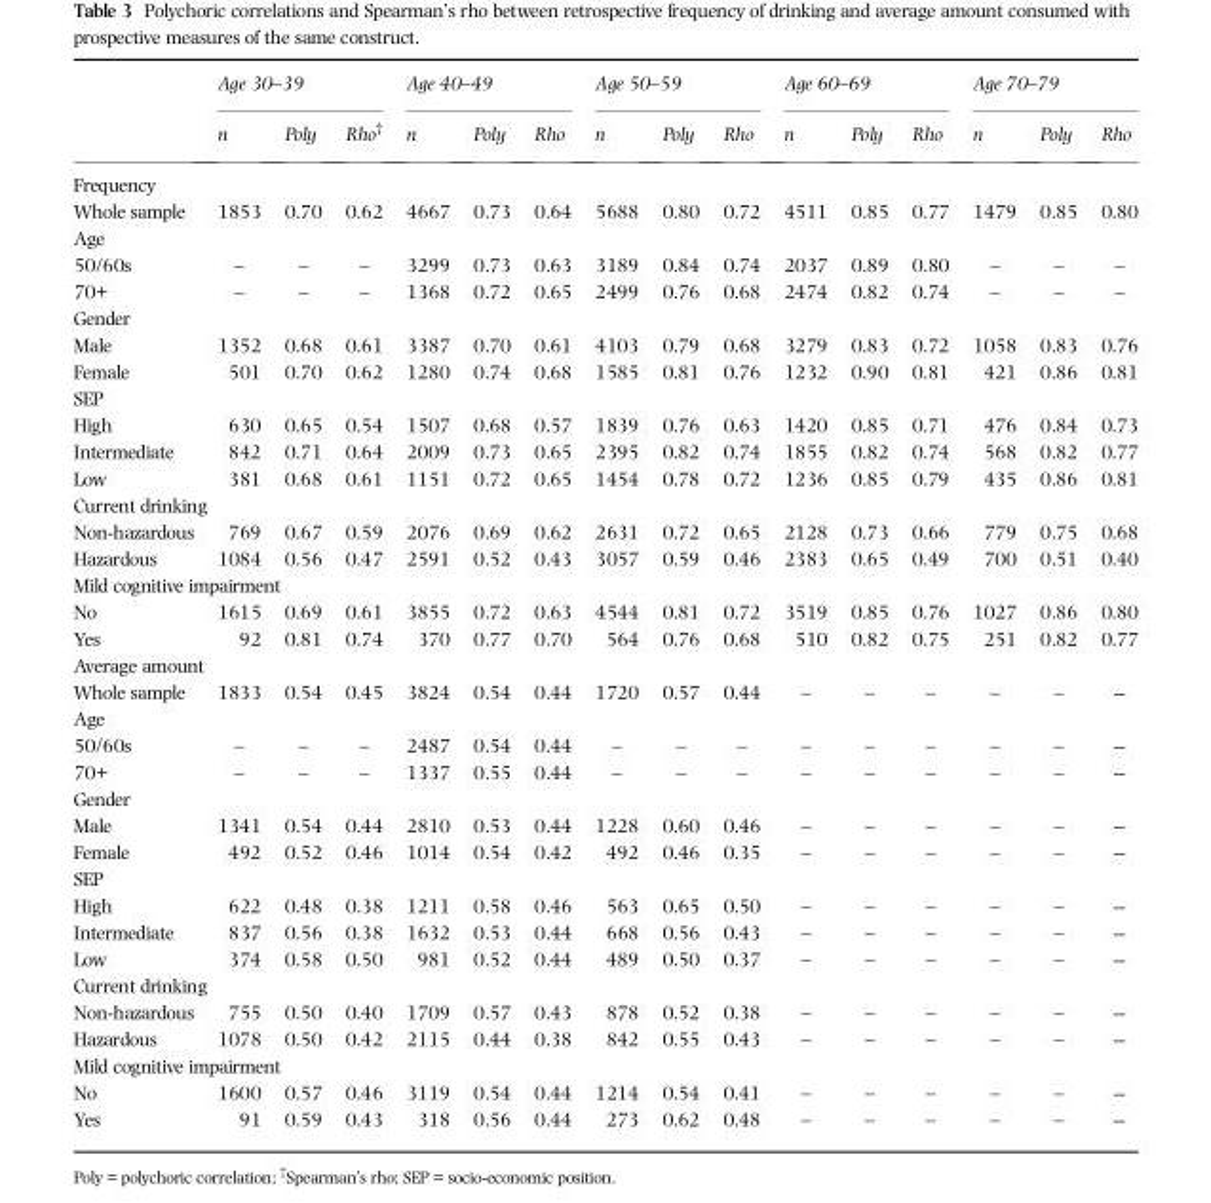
<table><thead><tr><td rowspan="2"></td><td colspan="3">Age 30–39</td><td colspan="3">Age 40–49</td><td colspan="3">Age 50–59</td><td colspan="3">Age 60–69</td><td colspan="3">Age 70–79</td></tr><tr><td>n</td><td>Poly</td><td>Rho†</td><td>n</td><td>Poly</td><td>Rho</td><td>n</td><td>Poly</td><td>Rho</td><td>n</td><td>Poly</td><td>Rho</td><td>n</td><td>Poly</td><td>Rho</td></tr></thead><tbody><tr><td colspan="16">Frequency</td></tr><tr><td>Whole sample</td><td>1853</td><td>0.70</td><td>0.62</td><td>4667</td><td>0.73</td><td>0.64</td><td>5688</td><td>0.80</td><td>0.72</td><td>4511</td><td>0.85</td><td>0.77</td><td>1479</td><td>0.85</td><td>0.80</td></tr><tr><td colspan="16">Age</td></tr><tr><td>50/60s</td><td>–</td><td>–</td><td>–</td><td>3299</td><td>0.73</td><td>0.63</td><td>3189</td><td>0.84</td><td>0.74</td><td>2037</td><td>0.89</td><td>0.80</td><td>–</td><td>–</td><td>–</td></tr><tr><td>70+</td><td>–</td><td>–</td><td>–</td><td>1368</td><td>0.72</td><td>0.65</td><td>2499</td><td>0.76</td><td>0.68</td><td>2474</td><td>0.82</td><td>0.74</td><td>–</td><td>–</td><td>–</td></tr><tr><td colspan="16">Gender</td></tr><tr><td>Male</td><td>1352</td><td>0.68</td><td>0.61</td><td>3387</td><td>0.70</td><td>0.61</td><td>4103</td><td>0.79</td><td>0.68</td><td>3279</td><td>0.83</td><td>0.72</td><td>1058</td><td>0.83</td><td>0.76</td></tr><tr><td>Female</td><td>501</td><td>0.70</td><td>0.62</td><td>1280</td><td>0.74</td><td>0.68</td><td>1585</td><td>0.81</td><td>0.76</td><td>1232</td><td>0.90</td><td>0.81</td><td>421</td><td>0.86</td><td>0.81</td></tr><tr><td colspan="16">SEP</td></tr><tr><td>High</td><td>630</td><td>0.65</td><td>0.54</td><td>1507</td><td>0.68</td><td>0.57</td><td>1839</td><td>0.76</td><td>0.63</td><td>1420</td><td>0.85</td><td>0.71</td><td>476</td><td>0.84</td><td>0.73</td></tr><tr><td>Intermediate</td><td>842</td><td>0.71</td><td>0.64</td><td>2009</td><td>0.73</td><td>0.65</td><td>2395</td><td>0.82</td><td>0.74</td><td>1855</td><td>0.82</td><td>0.74</td><td>568</td><td>0.82</td><td>0.77</td></tr><tr><td>Low</td><td>381</td><td>0.68</td><td>0.61</td><td>1151</td><td>0.72</td><td>0.65</td><td>1454</td><td>0.78</td><td>0.72</td><td>1236</td><td>0.85</td><td>0.79</td><td>435</td><td>0.86</td><td>0.81</td></tr><tr><td colspan="16">Current drinking</td></tr><tr><td>Non-hazardous</td><td>769</td><td>0.67</td><td>0.59</td><td>2076</td><td>0.69</td><td>0.62</td><td>2631</td><td>0.72</td><td>0.65</td><td>2128</td><td>0.73</td><td>0.66</td><td>779</td><td>0.75</td><td>0.68</td></tr><tr><td>Hazardous</td><td>1084</td><td>0.56</td><td>0.47</td><td>2591</td><td>0.52</td><td>0.43</td><td>3057</td><td>0.59</td><td>0.46</td><td>2383</td><td>0.65</td><td>0.49</td><td>700</td><td>0.51</td><td>0.40</td></tr><tr><td colspan="16">Mild cognitive impairment</td></tr><tr><td>No</td><td>1615</td><td>0.69</td><td>0.61</td><td>3855</td><td>0.72</td><td>0.63</td><td>4544</td><td>0.81</td><td>0.72</td><td>3519</td><td>0.85</td><td>0.76</td><td>1027</td><td>0.86</td><td>0.80</td></tr><tr><td>Yes</td><td>92</td><td>0.81</td><td>0.74</td><td>370</td><td>0.77</td><td>0.70</td><td>564</td><td>0.76</td><td>0.68</td><td>510</td><td>0.82</td><td>0.75</td><td>251</td><td>0.82</td><td>0.77</td></tr><tr><td colspan="16">Average amount</td></tr><tr><td>Whole sample</td><td>1833</td><td>0.54</td><td>0.45</td><td>3824</td><td>0.54</td><td>0.44</td><td>1720</td><td>0.57</td><td>0.44</td><td>–</td><td>–</td><td>–</td><td>–</td><td>–</td><td>--</td></tr><tr><td colspan="16">Age</td></tr><tr><td>50/60s</td><td>–</td><td>–</td><td>–</td><td>2487</td><td>0.54</td><td>0.44</td><td>–</td><td>–</td><td>–</td><td>–</td><td>–</td><td>–</td><td>–</td><td>–</td><td>--</td></tr><tr><td>70+</td><td>–</td><td>–</td><td>–</td><td>1337</td><td>0.55</td><td>0.44</td><td>–</td><td>–</td><td>–</td><td>–</td><td>–</td><td>–</td><td>–</td><td>–</td><td>--</td></tr><tr><td colspan="16">Gender</td></tr><tr><td>Male</td><td>1341</td><td>0.54</td><td>0.44</td><td>2810</td><td>0.53</td><td>0.44</td><td>1228</td><td>0.60</td><td>0.46</td><td>–</td><td>–</td><td>–</td><td>–</td><td>–</td><td>--</td></tr><tr><td>Female</td><td>492</td><td>0.52</td><td>0.46</td><td>1014</td><td>0.54</td><td>0.42</td><td>492</td><td>0.46</td><td>0.35</td><td>–</td><td>–</td><td>–</td><td>–</td><td>–</td><td>--</td></tr><tr><td colspan="16">SEP</td></tr><tr><td>High</td><td>622</td><td>0.48</td><td>0.38</td><td>1211</td><td>0.58</td><td>0.46</td><td>563</td><td>0.65</td><td>0.50</td><td>–</td><td>–</td><td>–</td><td>–</td><td>–</td><td>--</td></tr><tr><td>Intermediate</td><td>837</td><td>0.56</td><td>0.38</td><td>1632</td><td>0.53</td><td>0.44</td><td>668</td><td>0.56</td><td>0.43</td><td>–</td><td>–</td><td>–</td><td>–</td><td>–</td><td>--</td></tr><tr><td>Low</td><td>374</td><td>0.58</td><td>0.50</td><td>981</td><td>0.52</td><td>0.44</td><td>489</td><td>0.50</td><td>0.37</td><td>–</td><td>–</td><td>–</td><td>–</td><td>–</td><td>--</td></tr><tr><td colspan="16">Current drinking</td></tr><tr><td>Non-hazardous</td><td>755</td><td>0.50</td><td>0.40</td><td>1709</td><td>0.57</td><td>0.43</td><td>878</td><td>0.52</td><td>0.38</td><td>–</td><td>–</td><td>–</td><td>–</td><td>–</td><td>--</td></tr><tr><td>Hazardous</td><td>1078</td><td>0.50</td><td>0.42</td><td>2115</td><td>0.44</td><td>0.38</td><td>842</td><td>0.55</td><td>0.43</td><td>–</td><td>–</td><td>–</td><td>–</td><td>–</td><td>--</td></tr><tr><td colspan="16">Mild cognitive impairment</td></tr><tr><td>No</td><td>1600</td><td>0.57</td><td>0.46</td><td>3119</td><td>0.54</td><td>0.44</td><td>1214</td><td>0.54</td><td>0.41</td><td>–</td><td>–</td><td>–</td><td>–</td><td>–</td><td>--</td></tr><tr><td>Yes</td><td>91</td><td>0.59</td><td>0.43</td><td>318</td><td>0.56</td><td>0.44</td><td>273</td><td>0.62</td><td>0.48</td><td>–</td><td>–</td><td>–</td><td>–</td><td>–</td><td>--</td></tr></tbody></table>